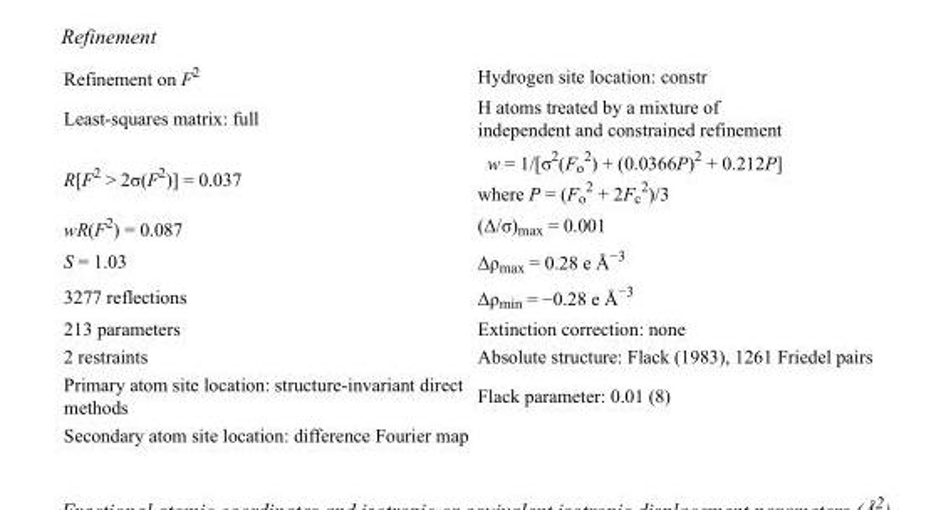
<table><tbody><tr><td>Refinement on F<sup>2</sup></td><td>Hydrogen site location: constr</td></tr><tr><td>Least-squares matrix: full</td><td>H atoms treated by a mixture of independent and constrained refinement</td></tr><tr><td>R[F<sup>2</sup> &gt; 2σ(F<sup>2</sup>)] = 0.037</td><td>w = 1/[σ<sup>2</sup>(F<sub>o</sub> <sup>2</sup>) + (0.0366P)<sup>2</sup> + 0.212P] where P = (F<sub>o</sub> <sup>2</sup> + 2F<sub>c</sub> <sup>2</sup>)/3</td></tr><tr><td>wR(F<sup>2</sup>) = 0.087</td><td>(Δ/σ)<sub>max</sub> = 0.001</td></tr><tr><td>S = 1.03</td><td>Δρ<sub>max</sub> = 0.28 e Å<sup>−3</sup></td></tr><tr><td>3277 reflections</td><td>Δρ<sub>min</sub> = −0.28 e Å<sup>−3</sup></td></tr><tr><td>213 parameters</td><td>Extinction correction: none</td></tr><tr><td>2 restraints</td><td>Absolute structure: Flack (1983), 1261 Friedel pairs</td></tr><tr><td>Primary atom site location: structure-invariant direct methods</td><td>Flack parameter: 0.01 (8)</td></tr><tr><td>Secondary atom site location: difference Fourier map</td><td></td></tr></tbody></table>